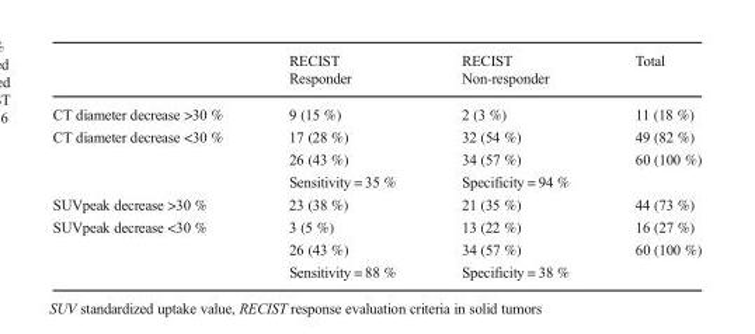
<table><thead><tr><td rowspan="2"></td><td rowspan="2">RECIST Responder</td><td rowspan="2">RECIST Non-responder</td><td rowspan="2">Total</td></tr><tr></tr></thead><tbody><tr><td>CT diameter decrease &gt;30 %</td><td>9 (15 %)</td><td>2 (3 %)</td><td>11 (18 %)</td></tr><tr><td rowspan="3">CT diameter decrease &lt;30 %</td><td>17 (28 %)</td><td>32 (54 %)</td><td>49 (82 %)</td></tr><tr><td>26 (43 %)</td><td>34 (57 %)</td><td>60 (100 %)</td></tr><tr><td>Sensitivity = 35 %</td><td>Specificity = 94 %</td><td></td></tr><tr><td>SUVpeak decrease &gt;30 %</td><td>23 (38 %)</td><td>21 (35 %)</td><td>44 (73 %)</td></tr><tr><td rowspan="3">SUVpeak decrease &lt;30 %</td><td>3 (5 %)</td><td>13 (22 %)</td><td>16 (27 %)</td></tr><tr><td>26 (43 %)</td><td>34 (57 %)</td><td>60 (100 %)</td></tr><tr><td>Sensitivity = 88 %</td><td>Specificity = 38 %</td><td></td></tr></tbody></table>